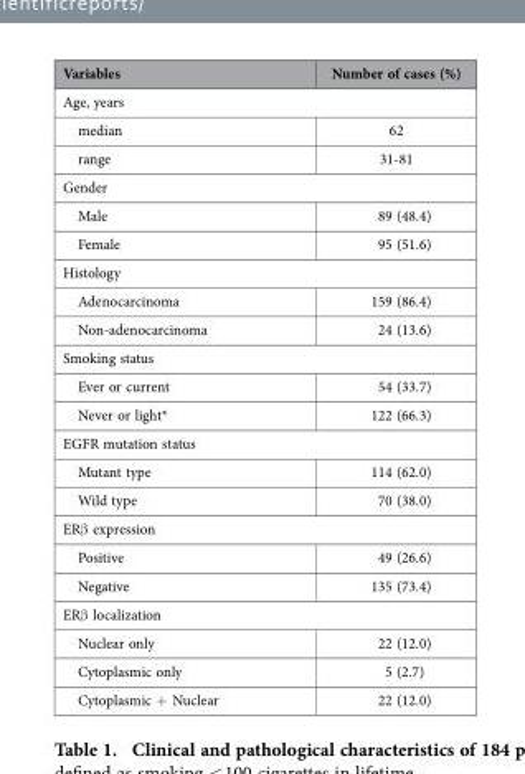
<table><thead><tr><td>Variables</td><td>Number of cases (%)</td></tr></thead><tbody><tr><td colspan="2">Age, years</td></tr><tr><td>median</td><td>62</td></tr><tr><td>range</td><td>31-81</td></tr><tr><td colspan="2">Gender</td></tr><tr><td>Male</td><td>89 (48.4)</td></tr><tr><td>Female</td><td>95 (51.6)</td></tr><tr><td colspan="2">Histology</td></tr><tr><td>Adenocarcinoma</td><td>159 (86.4)</td></tr><tr><td>Non-adenocarcinoma</td><td>24 (13.6)</td></tr><tr><td colspan="2">Smoking status</td></tr><tr><td>Ever or current</td><td>54 (33.7)</td></tr><tr><td>Never or light*</td><td>122 (66.3)</td></tr><tr><td colspan="2">EGFR mutation status</td></tr><tr><td>Mutant type</td><td>114 (62.0)</td></tr><tr><td>Wild type</td><td>70 (38.0)</td></tr><tr><td colspan="2">ERβ expression</td></tr><tr><td>Positive</td><td>49 (26.6)</td></tr><tr><td>Negative</td><td>135 (73.4)</td></tr><tr><td colspan="2">ERβ localization</td></tr><tr><td>Nuclear only</td><td>22 (12.0)</td></tr><tr><td>Cytoplasmic only</td><td>5 (2.7)</td></tr><tr><td>Cytoplasmic + Nuclear</td><td>22 (12.0)</td></tr></tbody></table>